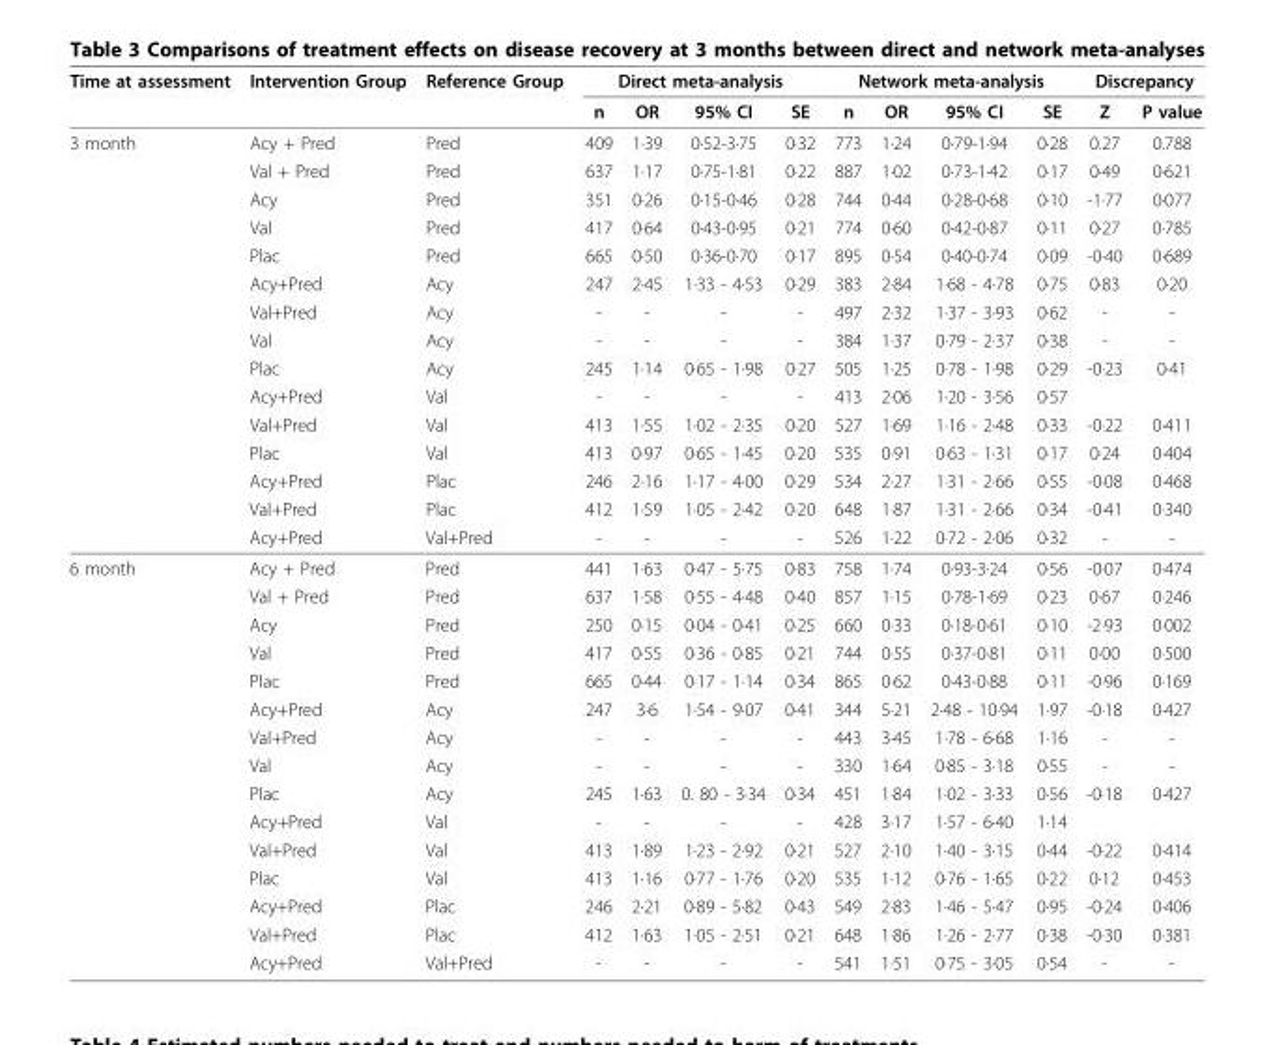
<table><thead><tr><td rowspan="2">Time at assessment</td><td rowspan="2">Intervention Group</td><td rowspan="2">Reference Group</td><td colspan="4">Direct meta-analysis</td><td colspan="4">Network meta-analysis</td><td colspan="2">Discrepancy</td></tr><tr><td>n</td><td>OR</td><td>95% CI</td><td>SE</td><td>n</td><td>OR</td><td>95% CI</td><td>SE</td><td>Z</td><td>P value</td></tr></thead><tbody><tr><td rowspan="15">3 month</td><td>Acy + Pred</td><td>Pred</td><td>409</td><td>1·39</td><td>0·52-3·75</td><td>0·32</td><td>773</td><td>1·24</td><td>0·79-1·94</td><td>0·28</td><td>0.27</td><td>0.788</td></tr><tr><td>Val + Pred</td><td>Pred</td><td>637</td><td>1·17</td><td>0·75-1·81</td><td>0·22</td><td>887</td><td>1·02</td><td>0·73-1·42</td><td>0·17</td><td>0·49</td><td>0·621</td></tr><tr><td>Acy</td><td>Pred</td><td>351</td><td>0·26</td><td>0·15-0·46</td><td>0·28</td><td>744</td><td>0·44</td><td>0·28-0·68</td><td>0·10</td><td>-1·77</td><td>0·077</td></tr><tr><td>Val</td><td>Pred</td><td>417</td><td>0·64</td><td>0·43-0·95</td><td>0·21</td><td>774</td><td>0·60</td><td>0·42-0·87</td><td>0·11</td><td>0·27</td><td>0·785</td></tr><tr><td>Plac</td><td>Pred</td><td>665</td><td>0·50</td><td>0·36-0·70</td><td>0·17</td><td>895</td><td>0·54</td><td>0·40-0·74</td><td>0·09</td><td>-0·40</td><td>0·689</td></tr><tr><td>Acy+Pred</td><td>Acy</td><td>247</td><td>2·45</td><td>1·33 - 4·53</td><td>0·29</td><td>383</td><td>2·84</td><td>1·68 - 4·78</td><td>0·75</td><td>0·83</td><td>0·20</td></tr><tr><td>Val+Pred</td><td>Acy</td><td>-</td><td>-</td><td>-</td><td>-</td><td>497</td><td>2·32</td><td>1·37 - 3·93</td><td>0·62</td><td>-</td><td>-</td></tr><tr><td>Val</td><td>Acy</td><td>-</td><td>-</td><td>-</td><td>-</td><td>384</td><td>1·37</td><td>0·79 - 2·37</td><td>0·38</td><td>-</td><td>-</td></tr><tr><td>Plac</td><td>Acy</td><td>245</td><td>1·14</td><td>0·65 - 1·98</td><td>0·27</td><td>505</td><td>1·25</td><td>0·78 - 1·98</td><td>0·29</td><td>-0·23</td><td>0·41</td></tr><tr><td>Acy+Pred</td><td>Val</td><td>-</td><td>-</td><td>-</td><td>-</td><td>413</td><td>2·06</td><td>1·20 - 3·56</td><td>0·57</td><td></td><td></td></tr><tr><td>Val+Pred</td><td>Val</td><td>413</td><td>1·55</td><td>1·02 - 2·35</td><td>0·20</td><td>527</td><td>1·69</td><td>1·16 - 2·48</td><td>0·33</td><td>-0·22</td><td>0·411</td></tr><tr><td>Plac</td><td>Val</td><td>413</td><td>0·97</td><td>0·65 - 1·45</td><td>0·20</td><td>535</td><td>0·91</td><td>0·63 - 1·31</td><td>0·17</td><td>0·24</td><td>0·404</td></tr><tr><td>Acy+Pred</td><td>Plac</td><td>246</td><td>2·16</td><td>1·17 - 4·00</td><td>0·29</td><td>534</td><td>2·27</td><td>1·31 - 2·66</td><td>0·55</td><td>-0·08</td><td>0·468</td></tr><tr><td>Val+Pred</td><td>Plac</td><td>412</td><td>1·59</td><td>1·05 - 2·42</td><td>0·20</td><td>648</td><td>1·87</td><td>1·31 - 2·66</td><td>0·34</td><td>-0·41</td><td>0·340</td></tr><tr><td>Acy+Pred</td><td>Val+Pred</td><td>-</td><td>-</td><td>-</td><td>-</td><td>526</td><td>1·22</td><td>0·72 - 2·06</td><td>0·32</td><td>-</td><td>-</td></tr><tr><td rowspan="15">6 month</td><td>Acy + Pred</td><td>Pred</td><td>441</td><td>1·63</td><td>0·47 - 5·75</td><td>0·83</td><td>758</td><td>1·74</td><td>0·93-3·24</td><td>0·56</td><td>-0·07</td><td>0·474</td></tr><tr><td>Val + Pred</td><td>Pred</td><td>637</td><td>1·58</td><td>0·55 - 4·48</td><td>0·40</td><td>857</td><td>1·15</td><td>0·78-1·69</td><td>0·23</td><td>0·67</td><td>0·246</td></tr><tr><td>Acy</td><td>Pred</td><td>250</td><td>0·15</td><td>0·04 - 0·41</td><td>0·25</td><td>660</td><td>0·33</td><td>0·18-0·61</td><td>0·10</td><td>-2·93</td><td>0·002</td></tr><tr><td>Val</td><td>Pred</td><td>417</td><td>0·55</td><td>0·36 - 0·85</td><td>0·21</td><td>744</td><td>0·55</td><td>0·37-0·81</td><td>0·11</td><td>0·00</td><td>0·500</td></tr><tr><td>Plac</td><td>Pred</td><td>665</td><td>0·44</td><td>0·17 - 1·14</td><td>0·34</td><td>865</td><td>0·62</td><td>0·43-0·88</td><td>0·11</td><td>-0·96</td><td>0·169</td></tr><tr><td>Acy+Pred</td><td>Acy</td><td>247</td><td>3·6</td><td>1·54 - 9·07</td><td>0·41</td><td>344</td><td>5·21</td><td>2·48 - 10·94</td><td>1·97</td><td>-0·18</td><td>0·427</td></tr><tr><td>Val+Pred</td><td>Acy</td><td>-</td><td>-</td><td>-</td><td>-</td><td>443</td><td>3·45</td><td>1·78 - 6·68</td><td>1·16</td><td>-</td><td>-</td></tr><tr><td>Val</td><td>Acy</td><td>-</td><td>-</td><td>-</td><td>-</td><td>330</td><td>1·64</td><td>0·85 - 3·18</td><td>0·55</td><td>-</td><td>-</td></tr><tr><td>Plac</td><td>Acy</td><td>245</td><td>1·63</td><td>0. 80 - 3·34</td><td>0·34</td><td>451</td><td>1·84</td><td>1·02 - 3·33</td><td>0·56</td><td>-0·18</td><td>0·427</td></tr><tr><td>Acy+Pred</td><td>Val</td><td>-</td><td>-</td><td>-</td><td>-</td><td>428</td><td>3·17</td><td>1·57 - 6·40</td><td>1·14</td><td></td><td></td></tr><tr><td>Val+Pred</td><td>Val</td><td>413</td><td>1·89</td><td>1·23 - 2·92</td><td>0·21</td><td>527</td><td>2·10</td><td>1·40 - 3·15</td><td>0·44</td><td>-0·22</td><td>0·414</td></tr><tr><td>Plac</td><td>Val</td><td>413</td><td>1·16</td><td>0·77 - 1·76</td><td>0·20</td><td>535</td><td>1·12</td><td>0·76 - 1·65</td><td>0·22</td><td>0·12</td><td>0·453</td></tr><tr><td>Acy+Pred</td><td>Plac</td><td>246</td><td>2·21</td><td>0·89 - 5·82</td><td>0·43</td><td>549</td><td>2·83</td><td>1·46 - 5·47</td><td>0·95</td><td>-0·24</td><td>0·406</td></tr><tr><td>Val+Pred</td><td>Plac</td><td>412</td><td>1·63</td><td>1·05 - 2·51</td><td>0·21</td><td>648</td><td>1·86</td><td>1·26 - 2·77</td><td>0·38</td><td>-0·30</td><td>0·381</td></tr><tr><td>Acy+Pred</td><td>Val+Pred</td><td>-</td><td>-</td><td>-</td><td>-</td><td>541</td><td>1·51</td><td>0·75 - 3·05</td><td>0·54</td><td>-</td><td>-</td></tr></tbody></table>